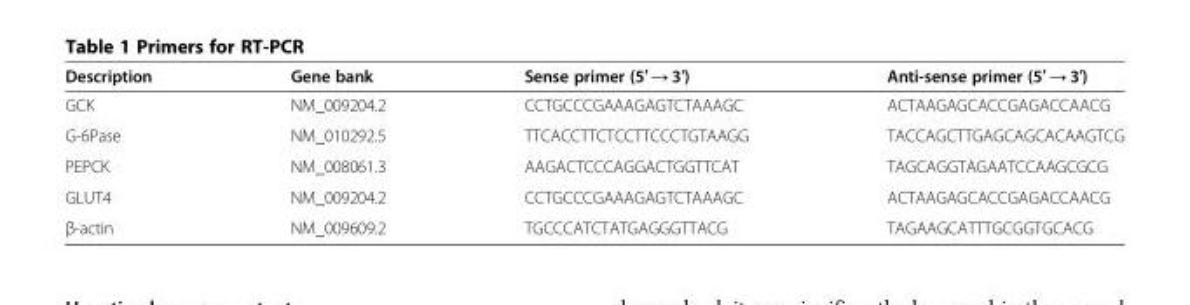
<table><thead><tr><td>Description</td><td>Gene bank</td><td>Sense primer (5′ → 3′)</td><td>Anti-sense primer (5′ → 3′)</td></tr></thead><tbody><tr><td>GCK</td><td>NM_009204.2</td><td>CCTGCCCGAAAGAGTCTAAAGC</td><td>ACTAAGAGCACCGAGACCAACG</td></tr><tr><td>G-6Pase</td><td>NM_010292.5</td><td>TTCACCTTCTCCTTCCCTGTAAGG</td><td>TACCAGCTTGAGCAGCACAAGTCG</td></tr><tr><td>PEPCK</td><td>NM_008061.3</td><td>AAGACTCCCAGGACTGGTTCAT</td><td>TAGCAGGTAGAATCCAAGCGCG</td></tr><tr><td>GLUT4</td><td>NM_009204.2</td><td>CCTGCCCGAAAGAGTCTAAAGC</td><td>ACTAAGAGCACCGAGACCAACG</td></tr><tr><td>β-actin</td><td>NM_009609.2</td><td>TGCCCATCTATGAGGGTTACG</td><td>TAGAAGCATTTGCGGTGCACG</td></tr></tbody></table>